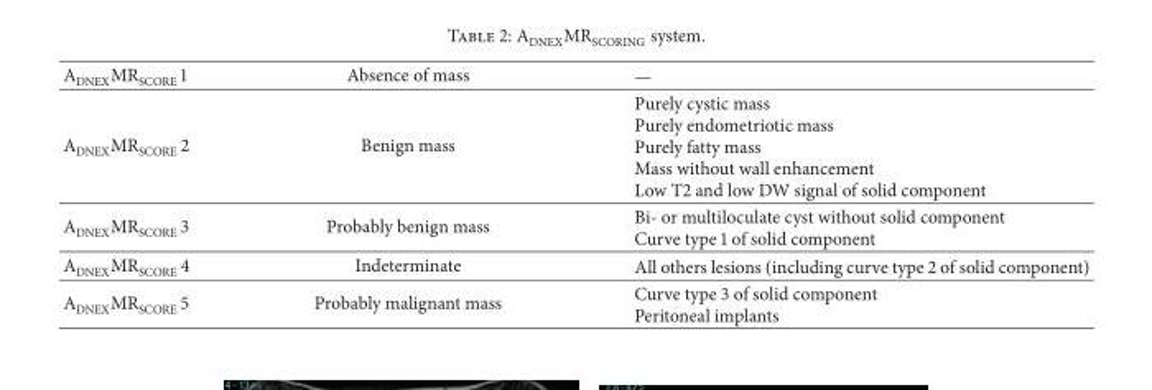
<table><thead><tr><td>A<sub>DNEX</sub>MR<sub>SCORE</sub> 1</td><td>Absence of mass</td><td>—</td></tr></thead><tbody><tr><td>A<sub>DNEX</sub>MR<sub>SCORE</sub> 2</td><td>Benign mass</td><td>Purely cystic mass Purely endometriotic mass Purely fatty mass Mass without wall enhancement Low T2 and low DW signal of solid component</td></tr><tr><td>A<sub>DNEX</sub>MR<sub>SCORE</sub> 3</td><td>Probably benign mass</td><td>Bi- or multiloculate cyst without solid component Curve type 1 of solid component</td></tr><tr><td>A<sub>DNEX</sub>MR<sub>SCORE</sub> 4</td><td>Indeterminate</td><td>All others lesions (including curve type 2 of solid component)</td></tr><tr><td>A<sub>DNEX</sub>MR<sub>SCORE</sub> 5</td><td>Probably malignant mass</td><td>Curve type 3 of solid component Peritoneal implants</td></tr></tbody></table>